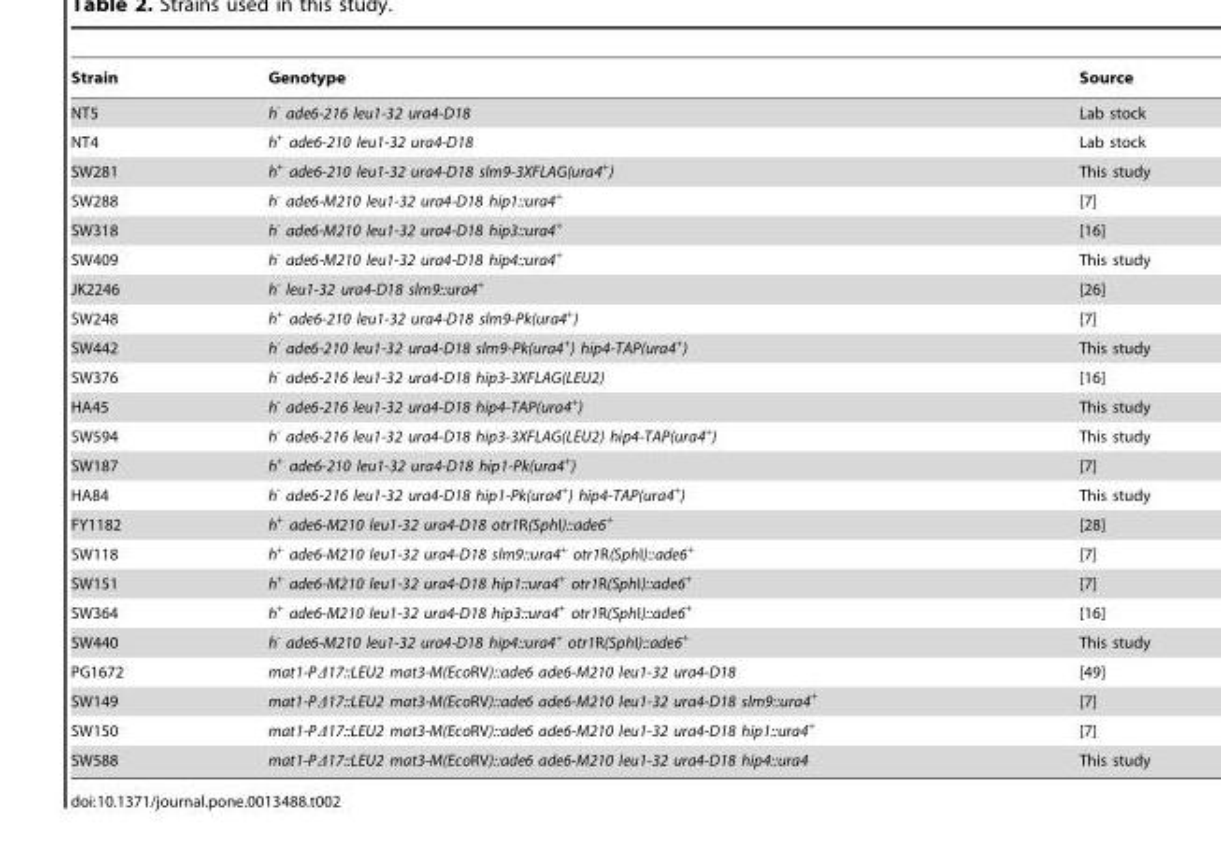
<table><thead><tr><td>Strain</td><td>Genotype</td><td>Source</td></tr></thead><tbody><tr><td>NT5</td><td>h<sup>-</sup> ade6-216 leu1-32 ura4-D18</td><td>Lab stock</td></tr><tr><td>NT4</td><td>h<sup>+</sup> ade6-210 leu1-32 ura4-D18</td><td>Lab stock</td></tr><tr><td>SW281</td><td>h<sup>+</sup> ade6-210 leu1-32 ura4-D18 slm9-3XFLAG(ura4<sup>+</sup>)</td><td>This study</td></tr><tr><td>SW288</td><td>h<sup>-</sup> ade6-M210 leu1-32 ura4-D18 hip1::ura4<sup>+</sup></td><td>[7]</td></tr><tr><td>SW318</td><td>h<sup>-</sup> ade6-M210 leu1-32 ura4-D18 hip3::ura4<sup>+</sup></td><td>[16]</td></tr><tr><td>SW409</td><td>h<sup>-</sup> ade6-M210 leu1-32 ura4-D18 hip4::ura4<sup>+</sup></td><td>This study</td></tr><tr><td>JK2246</td><td>h<sup>-</sup> leu1-32 ura4-D18 slm9::ura4<sup>+</sup></td><td>[26]</td></tr><tr><td>SW248</td><td>h<sup>+</sup> ade6-210 leu1-32 ura4-D18 slm9-Pk(ura4<sup>+</sup>)</td><td>[7]</td></tr><tr><td>SW442</td><td>h<sup>-</sup> ade6-210 leu1-32 ura4-D18 slm9-Pk(ura4<sup>+</sup>) hip4-TAP(ura4<sup>+</sup>)</td><td>This study</td></tr><tr><td>SW376</td><td>h<sup>-</sup> ade6-216 leu1-32 ura4-D18 hip3-3XFLAG(LEU2)</td><td>[16]</td></tr><tr><td>HA45</td><td>h<sup>-</sup> ade6-216 leu1-32 ura4-D18 hip4-TAP(ura4<sup>+</sup>)</td><td>This study</td></tr><tr><td>SW594</td><td>h<sup>-</sup> ade6-216 leu1-32 ura4-D18 hip3-3XFLAG(LEU2) hip4-TAP(ura4<sup>+</sup>)</td><td>This study</td></tr><tr><td>SW187</td><td>h<sup>+</sup> ade6-210 leu1-32 ura4-D18 hip1-Pk(ura4<sup>+</sup>)</td><td>[7]</td></tr><tr><td>HA84</td><td>h<sup>-</sup> ade6-216 leu1-32 ura4-D18 hip1-Pk(ura4<sup>+</sup>) hip4-TAP(ura4<sup>+</sup>)</td><td>This study</td></tr><tr><td>FY1182</td><td>h<sup>+</sup> ade6-M210 leu1-32 ura4-D18 otr1R(SphI)::ade6<sup>+</sup></td><td>[28]</td></tr><tr><td>SW118</td><td>h<sup>+</sup> ade6-M210 leu1-32 ura4-D18 slm9::ura4<sup>+</sup> otr1R(SphI)::ade6<sup>+</sup></td><td>[7]</td></tr><tr><td>SW151</td><td>h<sup>+</sup> ade6-M210 leu1-32 ura4-D18 hip1::ura4<sup>+</sup> otr1R(SphI)::ade6<sup>+</sup></td><td>[7]</td></tr><tr><td>SW364</td><td>h<sup>+</sup> ade6-M210 leu1-32 ura4-D18 hip3::ura4<sup>+</sup> otr1R(SphI)::ade6<sup>+</sup></td><td>[16]</td></tr><tr><td>SW440</td><td>h<sup>-</sup> ade6-M210 leu1-32 ura4-D18 hip4::ura4<sup>+</sup> otr1R(SphI)::ade6<sup>+</sup></td><td>This study</td></tr><tr><td>PG1672</td><td>mat1-PΔ17::LEU2 mat3-M(EcoRV)::ade6 ade6-M210 leu1-32 ura4-D18</td><td>[49]</td></tr><tr><td>SW149</td><td>mat1-PΔ17::LEU2 mat3-M(EcoRV)::ade6 ade6-M210 leu1-32 ura4-D18 slm9::ura4<sup>+</sup></td><td>[7]</td></tr><tr><td>SW150</td><td>mat1-PΔ17::LEU2 mat3-M(EcoRV)::ade6 ade6-M210 leu1-32 ura4-D18 hip1::ura4<sup>+</sup></td><td>[7]</td></tr><tr><td>SW588</td><td>mat1-PΔ17::LEU2 mat3-M(EcoRV)::ade6 ade6-M210 leu1-32 ura4-D18 hip4::ura4</td><td>This study</td></tr></tbody></table>